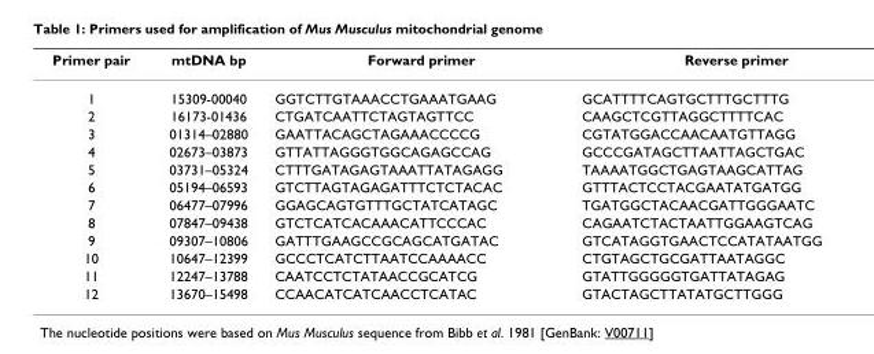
<table><thead><tr><td>Primer pair</td><td>mtDNA bp</td><td>Forward primer</td><td>Reverse primer</td></tr></thead><tbody><tr><td>1</td><td>15309-00040</td><td>GGTCTTGTAAACCTGAAATGAAG</td><td>GCATTTTCAGTGCTTTGCTTTG</td></tr><tr><td>2</td><td>16173-01436</td><td>CTGATCAATTCTAGTAGTTCC</td><td>CAAGCTCGTTAGGCTTTTCAC</td></tr><tr><td>3</td><td>01314–02880</td><td>GAATTACAGCTAGAAACCCCG</td><td>CGTATGGACCAACAATGTTAGG</td></tr><tr><td>4</td><td>02673–03873</td><td>GTTATTAGGGTGGCAGAGCCAG</td><td>GCCCGATAGCTTAATTAGCTGAC</td></tr><tr><td>5</td><td>03731–05324</td><td>CTTTGATAGAGTAAATTATAGAGG</td><td>TAAAATGGCTGAGTAAGCATTAG</td></tr><tr><td>6</td><td>05194–06593</td><td>GTCTTAGTAGAGATTTCTCTACAC</td><td>GTTTACTCCTACGAATATGATGG</td></tr><tr><td>7</td><td>06477–07996</td><td>GGAGCAGTGTTTGCTATCATAGC</td><td>TGATGGCTACAACGATTGGGAATC</td></tr><tr><td>8</td><td>07847–09438</td><td>GTCTCATCACAAACATTCCCAC</td><td>CAGAATCTACTAATTGGAAGTCAG</td></tr><tr><td>9</td><td>09307–10806</td><td>GATTTGAAGCCGCAGCATGATAC</td><td>GTCATAGGTGAACTCCATATAATGG</td></tr><tr><td>10</td><td>10647–12399</td><td>GCCCTCATCTTAATCCAAAACC</td><td>CTGTAGCTGCGATTAATAGGC</td></tr><tr><td>11</td><td>12247–13788</td><td>CAATCCTCTATAACCGCATCG</td><td>GTATTGGGGGTGATTATAGAG</td></tr><tr><td>12</td><td>13670–15498</td><td>CCAACATCATCAACCTCATAC</td><td>GTACTAGCTTATATGCTTGGG</td></tr></tbody></table>